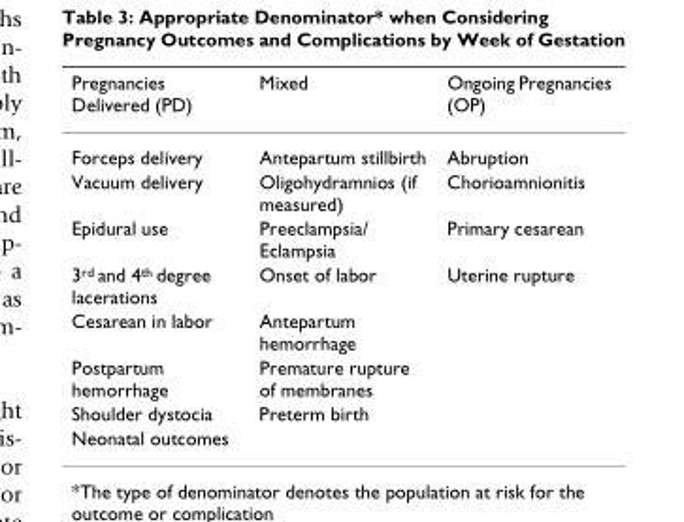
<table><thead><tr><td>Pregnancies Delivered (PD)</td><td>Mixed</td><td>Ongoing Pregnancies (OP)</td></tr></thead><tbody><tr><td>Forceps delivery</td><td>Antepartum stillbirth</td><td>Abruption</td></tr><tr><td>Vacuum delivery</td><td>Oligohydramnios (if measured)</td><td>Chorioamnionitis</td></tr><tr><td>Epidural use</td><td>Preeclampsia/ Eclampsia</td><td>Primary cesarean</td></tr><tr><td>3<sup>rd</sup> and 4<sup>th</sup> degree lacerations</td><td>Onset of labor</td><td>Uterine rupture</td></tr><tr><td>Cesarean in labor</td><td>Antepartum hemorrhage</td><td></td></tr><tr><td>Postpartum hemorrhage</td><td>Premature rupture of membranes</td><td></td></tr><tr><td>Shoulder dystocia</td><td>Preterm birth</td><td></td></tr><tr><td>Neonatal outcomes</td><td></td><td></td></tr></tbody></table>